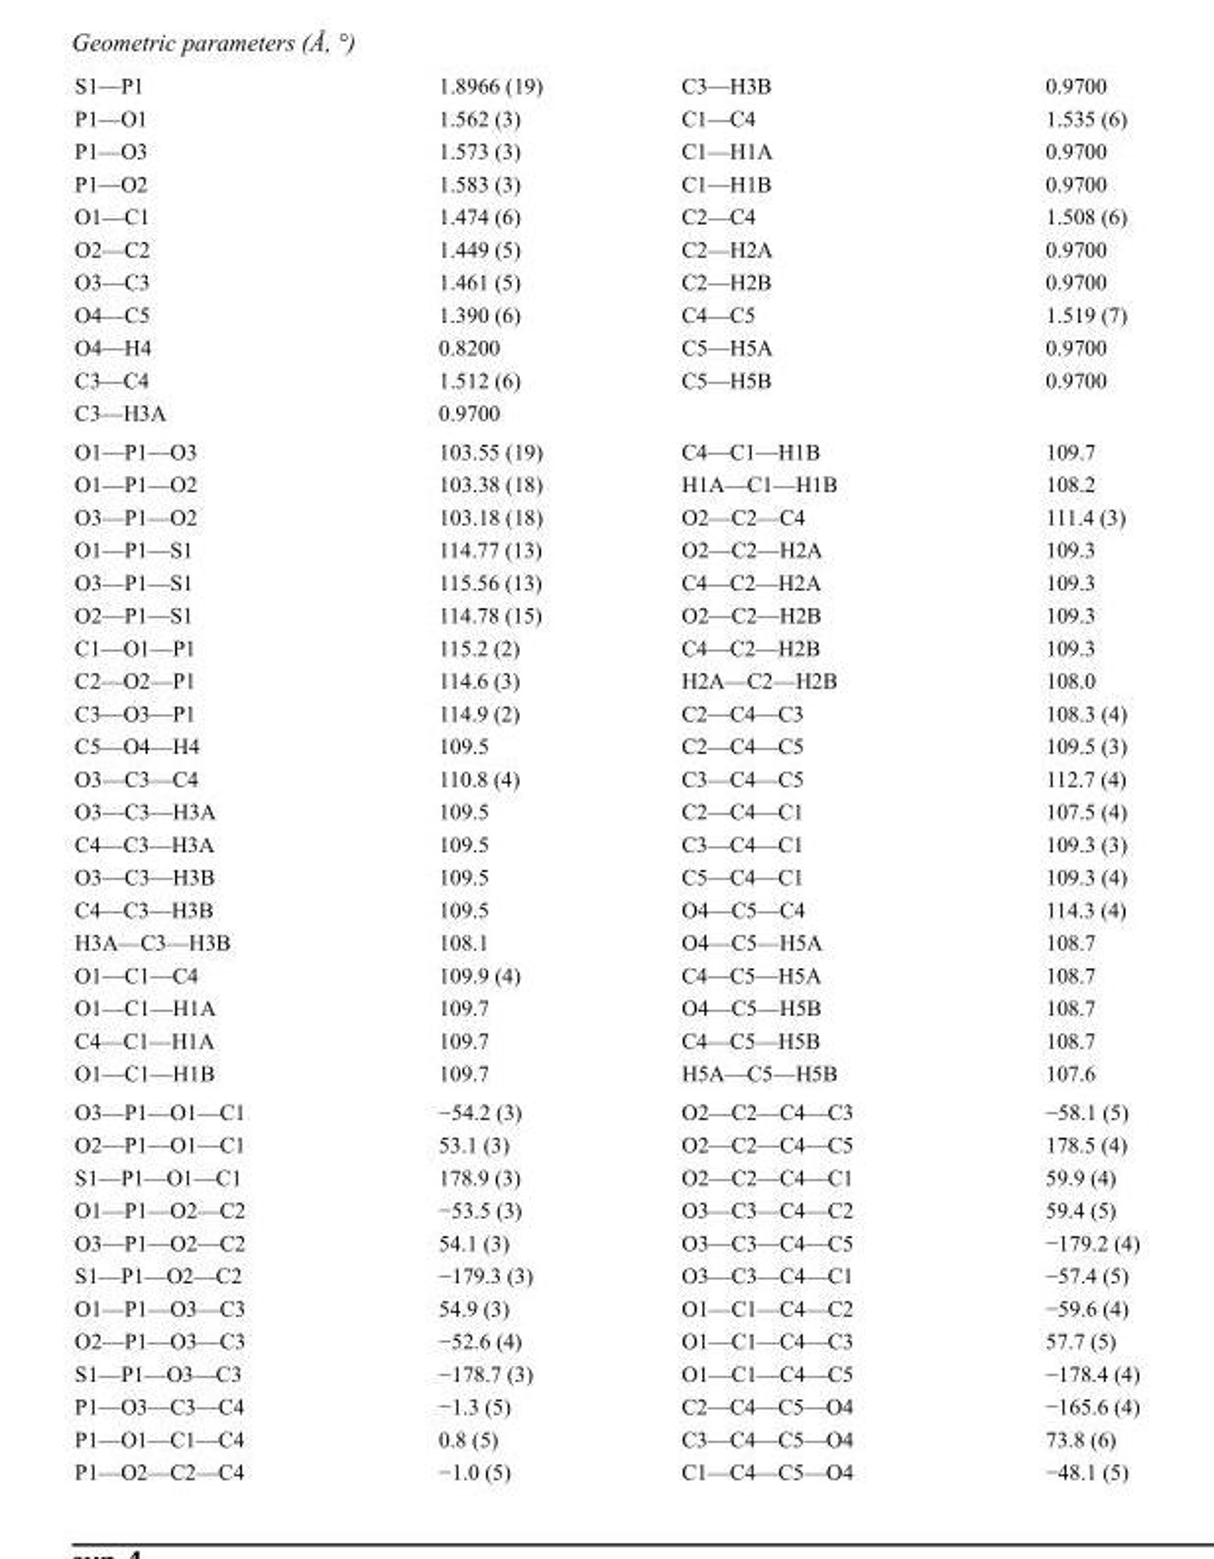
<table><tbody><tr><td>S1—P1</td><td>1.8966 (19)</td><td>C3—H3B</td><td>0.9700</td></tr><tr><td>P1—O1</td><td>1.562 (3)</td><td>C1—C4</td><td>1.535 (6)</td></tr><tr><td>P1—O3</td><td>1.573 (3)</td><td>C1—H1A</td><td>0.9700</td></tr><tr><td>P1—O2</td><td>1.583 (3)</td><td>C1—H1B</td><td>0.9700</td></tr><tr><td>O1—C1</td><td>1.474 (6)</td><td>C2—C4</td><td>1.508 (6)</td></tr><tr><td>O2—C2</td><td>1.449 (5)</td><td>C2—H2A</td><td>0.9700</td></tr><tr><td>O3—C3</td><td>1.461 (5)</td><td>C2—H2B</td><td>0.9700</td></tr><tr><td>O4—C5</td><td>1.390 (6)</td><td>C4—C5</td><td>1.519 (7)</td></tr><tr><td>O4—H4</td><td>0.8200</td><td>C5—H5A</td><td>0.9700</td></tr><tr><td>C3—C4</td><td>1.512 (6)</td><td>C5—H5B</td><td>0.9700</td></tr><tr><td>C3—H3A</td><td>0.9700</td><td></td><td></td></tr><tr><td>O1—P1—O3</td><td>103.55 (19)</td><td>C4—C1—H1B</td><td>109.7</td></tr><tr><td>O1—P1—O2</td><td>103.38 (18)</td><td>H1A—C1—H1B</td><td>108.2</td></tr><tr><td>O3—P1—O2</td><td>103.18 (18)</td><td>O2—C2—C4</td><td>111.4 (3)</td></tr><tr><td>O1—P1—S1</td><td>114.77 (13)</td><td>O2—C2—H2A</td><td>109.3</td></tr><tr><td>O3—P1—S1</td><td>115.56 (13)</td><td>C4—C2—H2A</td><td>109.3</td></tr><tr><td>O2—P1—S1</td><td>114.78 (15)</td><td>O2—C2—H2B</td><td>109.3</td></tr><tr><td>C1—O1—P1</td><td>115.2 (2)</td><td>C4—C2—H2B</td><td>109.3</td></tr><tr><td>C2—O2—P1</td><td>114.6 (3)</td><td>H2A—C2—H2B</td><td>108.0</td></tr><tr><td>C3—O3—P1</td><td>114.9 (2)</td><td>C2—C4—C3</td><td>108.3 (4)</td></tr><tr><td>C5—O4—H4</td><td>109.5</td><td>C2—C4—C5</td><td>109.5 (3)</td></tr><tr><td>O3—C3—C4</td><td>110.8 (4)</td><td>C3—C4—C5</td><td>112.7 (4)</td></tr><tr><td>O3—C3—H3A</td><td>109.5</td><td>C2—C4—C1</td><td>107.5 (4)</td></tr><tr><td>C4—C3—H3A</td><td>109.5</td><td>C3—C4—C1</td><td>109.3 (3)</td></tr><tr><td>O3—C3—H3B</td><td>109.5</td><td>C5—C4—C1</td><td>109.3 (4)</td></tr><tr><td>C4—C3—H3B</td><td>109.5</td><td>O4—C5—C4</td><td>114.3 (4)</td></tr><tr><td>H3A—C3—H3B</td><td>108.1</td><td>O4—C5—H5A</td><td>108.7</td></tr><tr><td>O1—C1—C4</td><td>109.9 (4)</td><td>C4—C5—H5A</td><td>108.7</td></tr><tr><td>O1—C1—H1A</td><td>109.7</td><td>O4—C5—H5B</td><td>108.7</td></tr><tr><td>C4—C1—H1A</td><td>109.7</td><td>C4—C5—H5B</td><td>108.7</td></tr><tr><td>O1—C1—H1B</td><td>109.7</td><td>H5A—C5—H5B</td><td>107.6</td></tr><tr><td>O3—P1—O1—C1</td><td>−54.2 (3)</td><td>O2—C2—C4—C3</td><td>−58.1 (5)</td></tr><tr><td>O2—P1—O1—C1</td><td>53.1 (3)</td><td>O2—C2—C4—C5</td><td>178.5 (4)</td></tr><tr><td>S1—P1—O1—C1</td><td>178.9 (3)</td><td>O2—C2—C4—C1</td><td>59.9 (4)</td></tr><tr><td>O1—P1—O2—C2</td><td>−53.5 (3)</td><td>O3—C3—C4—C2</td><td>59.4 (5)</td></tr><tr><td>O3—P1—O2—C2</td><td>54.1 (3)</td><td>O3—C3—C4—C5</td><td>−179.2 (4)</td></tr><tr><td>S1—P1—O2—C2</td><td>−179.3 (3)</td><td>O3—C3—C4—C1</td><td>−57.4 (5)</td></tr><tr><td>O1—P1—O3—C3</td><td>54.9 (3)</td><td>O1—C1—C4—C2</td><td>−59.6 (4)</td></tr><tr><td>O2—P1—O3—C3</td><td>−52.6 (4)</td><td>O1—C1—C4—C3</td><td>57.7 (5)</td></tr><tr><td>S1—P1—O3—C3</td><td>−178.7 (3)</td><td>O1—C1—C4—C5</td><td>−178.4 (4)</td></tr><tr><td>P1—O3—C3—C4</td><td>−1.3 (5)</td><td>C2—C4—C5—O4</td><td>−165.6 (4)</td></tr><tr><td>P1—O1—C1—C4</td><td>0.8 (5)</td><td>C3—C4—C5—O4</td><td>73.8 (6)</td></tr><tr><td>P1—O2—C2—C4</td><td>−1.0 (5)</td><td>C1—C4—C5—O4</td><td>−48.1 (5)</td></tr></tbody></table>